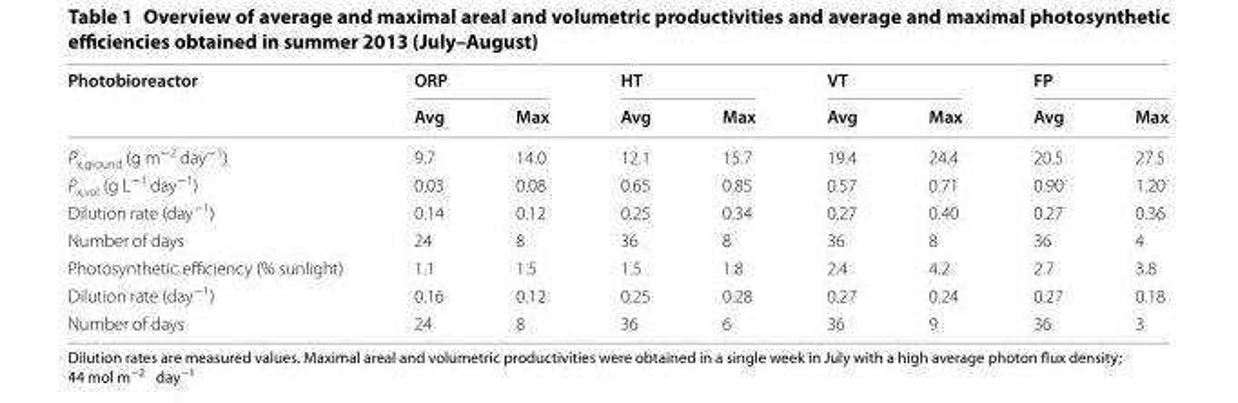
<table><thead><tr><td rowspan="2">Photobioreactor</td><td colspan="2">ORP</td><td colspan="2">HT</td><td colspan="2">VT</td><td colspan="2">FP</td></tr><tr><td>Avg</td><td>Max</td><td>Avg</td><td>Max</td><td>Avg</td><td>Max</td><td>Avg</td><td>Max</td></tr></thead><tbody><tr><td>P<sub>x,ground</sub> (g m<sup>−2</sup> day<sup>−1</sup>)</td><td>9.7</td><td>14.0</td><td>12.1</td><td>15.7</td><td>19.4</td><td>24.4</td><td>20.5</td><td>27.5</td></tr><tr><td>P<sub>x,vol</sub> (g L<sup>−1</sup> day<sup>−1</sup>)</td><td>0.03</td><td>0.08</td><td>0.65</td><td>0.85</td><td>0.57</td><td>0.71</td><td>0.90</td><td>1.20</td></tr><tr><td>Dilution rate (day<sup>−1</sup>)</td><td>0.14</td><td>0.12</td><td>0.25</td><td>0.34</td><td>0.27</td><td>0.40</td><td>0.27</td><td>0.36</td></tr><tr><td>Number of days</td><td>24</td><td>8</td><td>36</td><td>8</td><td>36</td><td>8</td><td>36</td><td>4</td></tr><tr><td>Photosynthetic efficiency (% sunlight)</td><td>1.1</td><td>1.5</td><td>1.5</td><td>1.8</td><td>2.4</td><td>4.2</td><td>2.7</td><td>3.8</td></tr><tr><td>Dilution rate (day<sup>−1</sup>)</td><td>0.16</td><td>0.12</td><td>0.25</td><td>0.28</td><td>0.27</td><td>0.24</td><td>0.27</td><td>0.18</td></tr><tr><td>Number of days</td><td>24</td><td>8</td><td>36</td><td>6</td><td>36</td><td>9</td><td>36</td><td>3</td></tr></tbody></table>